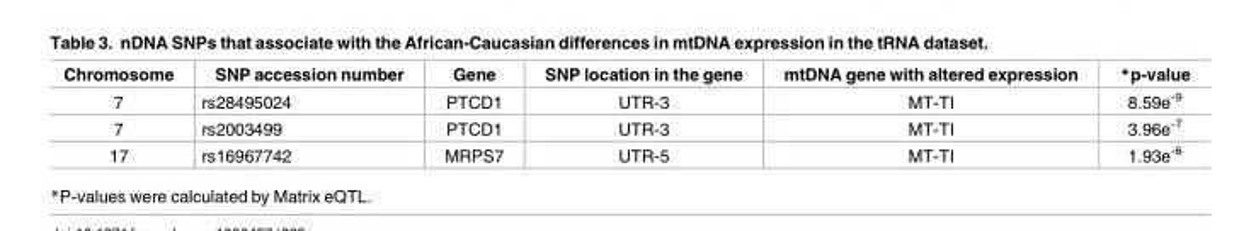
<table><thead><tr><td>Chromosome</td><td>SNP accession number</td><td>Gene</td><td>SNP location in the gene</td><td>mtDNA gene with altered expression</td><td>*p-value</td></tr></thead><tbody><tr><td>7</td><td>rs28495024</td><td>PTCD1</td><td>UTR-3</td><td>MT-TI</td><td>8.59e<sup>-9</sup></td></tr><tr><td>7</td><td>rs2003499</td><td>PTCD1</td><td>UTR-3</td><td>MT-TI</td><td>3.96e<sup>-7</sup></td></tr><tr><td>17</td><td>rs16967742</td><td>MRPS7</td><td>UTR-5</td><td>MT-TI</td><td>1.93e<sup>-6</sup></td></tr></tbody></table>